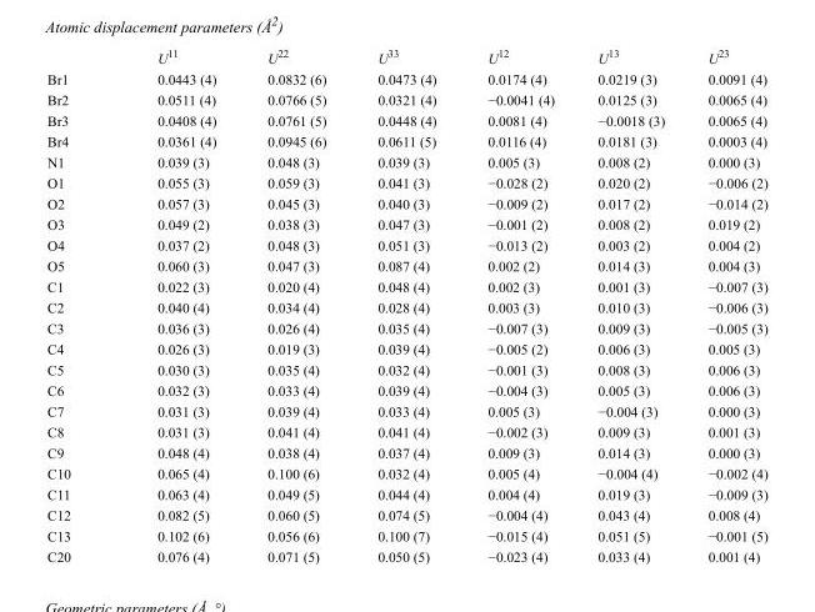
<table><thead><tr><td></td><td>U<sup>11</sup></td><td>U<sup>22</sup></td><td>U<sup>33</sup></td><td>U<sup>12</sup></td><td>U<sup>13</sup></td><td>U<sup>23</sup></td></tr></thead><tbody><tr><td>Br1</td><td>0.0443 (4)</td><td>0.0832 (6)</td><td>0.0473 (4)</td><td>0.0174 (4)</td><td>0.0219 (3)</td><td>0.0091 (4)</td></tr><tr><td>Br2</td><td>0.0511 (4)</td><td>0.0766 (5)</td><td>0.0321 (4)</td><td>−0.0041 (4)</td><td>0.0125 (3)</td><td>0.0065 (4)</td></tr><tr><td>Br3</td><td>0.0408 (4)</td><td>0.0761 (5)</td><td>0.0448 (4)</td><td>0.0081 (4)</td><td>−0.0018 (3)</td><td>0.0065 (4)</td></tr><tr><td>Br4</td><td>0.0361 (4)</td><td>0.0945 (6)</td><td>0.0611 (5)</td><td>0.0116 (4)</td><td>0.0181 (3)</td><td>0.0003 (4)</td></tr><tr><td>N1</td><td>0.039 (3)</td><td>0.048 (3)</td><td>0.039 (3)</td><td>0.005 (3)</td><td>0.008 (2)</td><td>0.000 (3)</td></tr><tr><td>O1</td><td>0.055 (3)</td><td>0.059 (3)</td><td>0.041 (3)</td><td>−0.028 (2)</td><td>0.020 (2)</td><td>−0.006 (2)</td></tr><tr><td>O2</td><td>0.057 (3)</td><td>0.045 (3)</td><td>0.040 (3)</td><td>−0.009 (2)</td><td>0.017 (2)</td><td>−0.014 (2)</td></tr><tr><td>O3</td><td>0.049 (2)</td><td>0.038 (3)</td><td>0.047 (3)</td><td>−0.001 (2)</td><td>0.008 (2)</td><td>0.019 (2)</td></tr><tr><td>O4</td><td>0.037 (2)</td><td>0.048 (3)</td><td>0.051 (3)</td><td>−0.013 (2)</td><td>0.003 (2)</td><td>0.004 (2)</td></tr><tr><td>O5</td><td>0.060 (3)</td><td>0.047 (3)</td><td>0.087 (4)</td><td>0.002 (2)</td><td>0.014 (3)</td><td>0.004 (3)</td></tr><tr><td>C1</td><td>0.022 (3)</td><td>0.020 (4)</td><td>0.048 (4)</td><td>0.002 (3)</td><td>0.001 (3)</td><td>−0.007 (3)</td></tr><tr><td>C2</td><td>0.040 (4)</td><td>0.034 (4)</td><td>0.028 (4)</td><td>0.003 (3)</td><td>0.010 (3)</td><td>−0.006 (3)</td></tr><tr><td>C3</td><td>0.036 (3)</td><td>0.026 (4)</td><td>0.035 (4)</td><td>−0.007 (3)</td><td>0.009 (3)</td><td>−0.005 (3)</td></tr><tr><td>C4</td><td>0.026 (3)</td><td>0.019 (3)</td><td>0.039 (4)</td><td>−0.005 (2)</td><td>0.006 (3)</td><td>0.005 (3)</td></tr><tr><td>C5</td><td>0.030 (3)</td><td>0.035 (4)</td><td>0.032 (4)</td><td>−0.001 (3)</td><td>0.008 (3)</td><td>0.006 (3)</td></tr><tr><td>C6</td><td>0.032 (3)</td><td>0.033 (4)</td><td>0.039 (4)</td><td>−0.004 (3)</td><td>0.005 (3)</td><td>0.006 (3)</td></tr><tr><td>C7</td><td>0.031 (3)</td><td>0.039 (4)</td><td>0.033 (4)</td><td>0.005 (3)</td><td>−0.004 (3)</td><td>0.000 (3)</td></tr><tr><td>C8</td><td>0.031 (3)</td><td>0.041 (4)</td><td>0.041 (4)</td><td>−0.002 (3)</td><td>0.009 (3)</td><td>0.001 (3)</td></tr><tr><td>C9</td><td>0.048 (4)</td><td>0.038 (4)</td><td>0.037 (4)</td><td>0.009 (3)</td><td>0.014 (3)</td><td>0.000 (3)</td></tr><tr><td>C10</td><td>0.065 (4)</td><td>0.100 (6)</td><td>0.032 (4)</td><td>0.005 (4)</td><td>−0.004 (4)</td><td>−0.002 (4)</td></tr><tr><td>C11</td><td>0.063 (4)</td><td>0.049 (5)</td><td>0.044 (4)</td><td>0.004 (4)</td><td>0.019 (3)</td><td>−0.009 (3)</td></tr><tr><td>C12</td><td>0.082 (5)</td><td>0.060 (5)</td><td>0.074 (5)</td><td>−0.004 (4)</td><td>0.043 (4)</td><td>0.008 (4)</td></tr><tr><td>C13</td><td>0.102 (6)</td><td>0.056 (6)</td><td>0.100 (7)</td><td>−0.015 (4)</td><td>0.051 (5)</td><td>−0.001 (5)</td></tr><tr><td>C20</td><td>0.076 (4)</td><td>0.071 (5)</td><td>0.050 (5)</td><td>−0.023 (4)</td><td>0.033 (4)</td><td>0.001 (4)</td></tr></tbody></table>